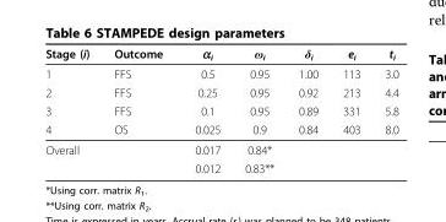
<table><thead><tr><td>Stage (i)</td><td>Outcome</td><td>α<sub>i</sub></td><td>ω<sub>i</sub></td><td>δ<sub>i</sub></td><td>e<sub>i</sub></td><td>t<sub>i</sub></td></tr></thead><tbody><tr><td>1</td><td>FFS</td><td>0.5</td><td>0.95</td><td>1.00</td><td>113</td><td>3.0</td></tr><tr><td>2</td><td>FFS</td><td>0.25</td><td>0.95</td><td>0.92</td><td>213</td><td>4.4</td></tr><tr><td>3</td><td>FFS</td><td>0.1</td><td>0.95</td><td>0.89</td><td>331</td><td>5.8</td></tr><tr><td>4</td><td>OS</td><td>0.025</td><td>0.9</td><td>0.84</td><td>403</td><td>8.0</td></tr><tr><td rowspan="2">Overall</td><td></td><td>0.017</td><td>0.84*</td><td></td><td></td><td></td></tr><tr><td></td><td>0.012</td><td>0.83**</td><td></td><td></td><td></td></tr></tbody></table>